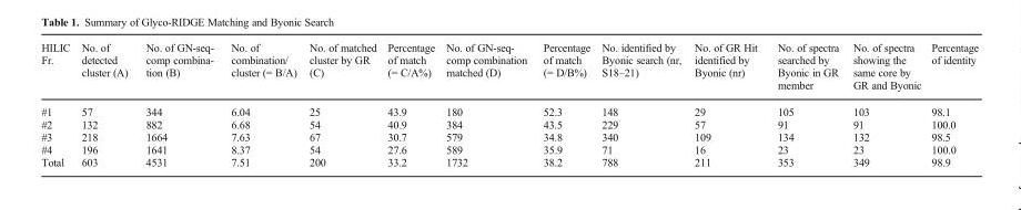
<table><thead><tr><td>HILIC Fr.</td><td>No. of detected cluster (A)</td><td>No. of GN-seq- comp combina- tion (B)</td><td>No. of combination/ cluster (= B/A)</td><td>No. of matched cluster by GR (C)</td><td>Percentage of match (= C/A%)</td><td>No. of GN-seq- comp combination matched (D)</td><td>Percentage of match (= D/B%)</td><td>No. identified by Byonic search (nr, S18–21)</td><td>No. of GR Hit identified by Byonic (nr)</td><td>No. of spectra searched by Byonic in GR member</td><td>No. of spectra showing the same core by GR and Byonic</td><td>Percentage of identity</td></tr></thead><tbody><tr><td>#1</td><td>57</td><td>344</td><td>6.04</td><td>25</td><td>43.9</td><td>180</td><td>52.3</td><td>148</td><td>29</td><td>105</td><td>103</td><td>98.1</td></tr><tr><td>#2</td><td>132</td><td>882</td><td>6.68</td><td>54</td><td>40.9</td><td>384</td><td>43.5</td><td>229</td><td>57</td><td>91</td><td>91</td><td>100.0</td></tr><tr><td>#3</td><td>218</td><td>1664</td><td>7.63</td><td>67</td><td>30.7</td><td>579</td><td>34.8</td><td>340</td><td>109</td><td>134</td><td>132</td><td>98.5</td></tr><tr><td>#4</td><td>196</td><td>1641</td><td>8.37</td><td>54</td><td>27.6</td><td>589</td><td>35.9</td><td>71</td><td>16</td><td>23</td><td>23</td><td>100.0</td></tr><tr><td>Total</td><td>603</td><td>4531</td><td>7.51</td><td>200</td><td>33.2</td><td>1732</td><td>38.2</td><td>788</td><td>211</td><td>353</td><td>349</td><td>98.9</td></tr></tbody></table>